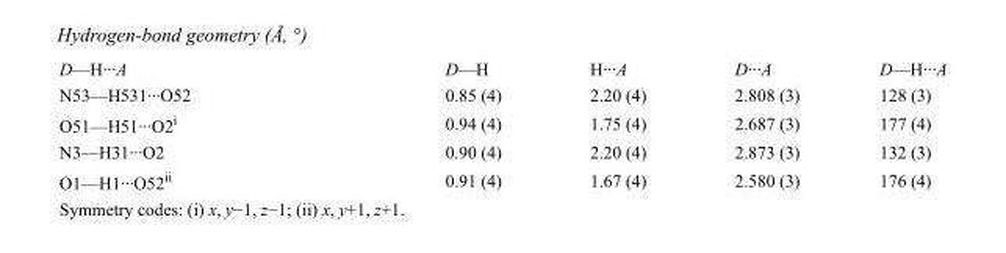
<table><tbody><tr><td>D—H···A</td><td>D—H</td><td>H···A</td><td>D···A</td><td>D—H···A</td></tr><tr><td>N53—H531···O52</td><td>0.85 (4)</td><td>2.20 (4)</td><td>2.808 (3)</td><td>128 (3)</td></tr><tr><td>O51—H51···O2<sup>i</sup></td><td>0.94 (4)</td><td>1.75 (4)</td><td>2.687 (3)</td><td>177 (4)</td></tr><tr><td>N3—H31···O2</td><td>0.90 (4)</td><td>2.20 (4)</td><td>2.873 (3)</td><td>132 (3)</td></tr><tr><td>O1—H1···O52<sup>ii</sup></td><td>0.91 (4)</td><td>1.67 (4)</td><td>2.580 (3)</td><td>176 (4)</td></tr></tbody></table>